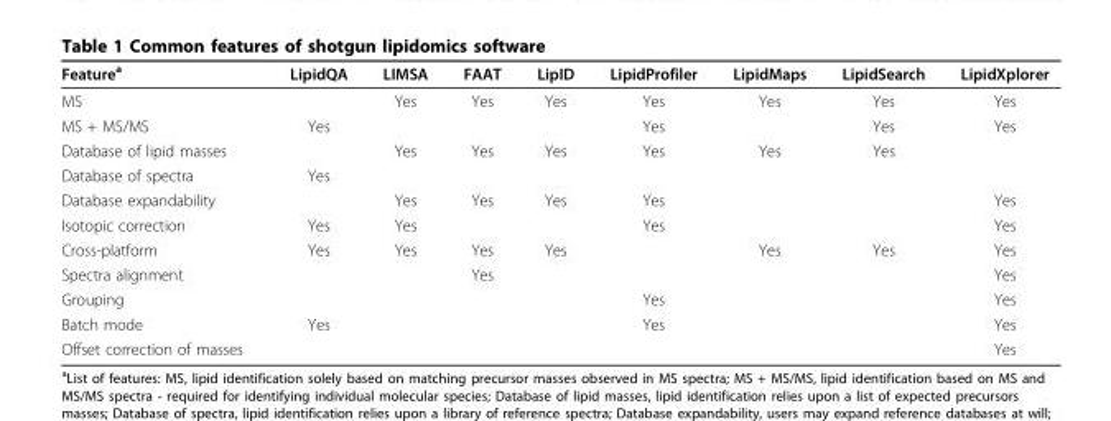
<table><thead><tr><td>Feature<sup>a</sup></td><td>LipidQA</td><td>LIMSA</td><td>FAAT</td><td>LipID</td><td>LipidProfiler</td><td>LipidMaps</td><td>LipidSearch</td><td>LipidXplorer</td></tr></thead><tbody><tr><td>MS</td><td></td><td>Yes</td><td>Yes</td><td>Yes</td><td>Yes</td><td>Yes</td><td>Yes</td><td>Yes</td></tr><tr><td>MS + MS/MS</td><td>Yes</td><td></td><td></td><td></td><td>Yes</td><td></td><td>Yes</td><td>Yes</td></tr><tr><td>Database of lipid masses</td><td></td><td>Yes</td><td>Yes</td><td>Yes</td><td>Yes</td><td>Yes</td><td>Yes</td><td></td></tr><tr><td>Database of spectra</td><td>Yes</td><td></td><td></td><td></td><td></td><td></td><td></td><td></td></tr><tr><td>Database expandability</td><td></td><td>Yes</td><td>Yes</td><td>Yes</td><td>Yes</td><td></td><td></td><td>Yes</td></tr><tr><td>Isotopic correction</td><td>Yes</td><td>Yes</td><td></td><td></td><td>Yes</td><td></td><td></td><td>Yes</td></tr><tr><td>Cross-platform</td><td>Yes</td><td>Yes</td><td>Yes</td><td>Yes</td><td></td><td>Yes</td><td>Yes</td><td>Yes</td></tr><tr><td>Spectra alignment</td><td></td><td></td><td>Yes</td><td></td><td></td><td></td><td></td><td>Yes</td></tr><tr><td>Grouping</td><td></td><td></td><td></td><td></td><td>Yes</td><td></td><td></td><td>Yes</td></tr><tr><td>Batch mode</td><td>Yes</td><td></td><td></td><td></td><td>Yes</td><td></td><td></td><td>Yes</td></tr><tr><td>Offset correction of masses</td><td></td><td></td><td></td><td></td><td></td><td></td><td></td><td>Yes</td></tr></tbody></table>